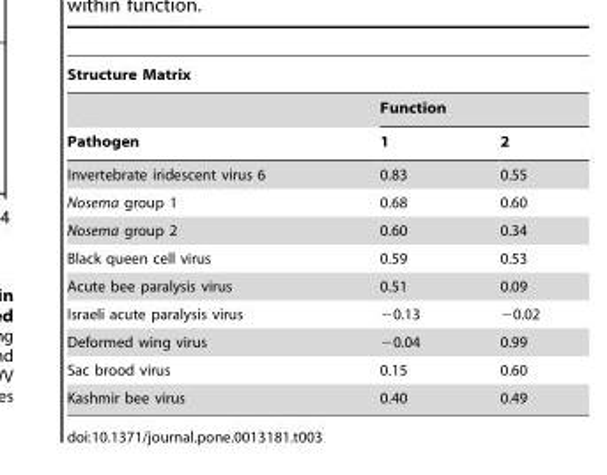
<table><thead><tr><td colspan="3">Structure Matrix</td></tr><tr><td rowspan="2">Pathogen</td><td colspan="2">Function</td></tr><tr><td>1</td><td>2</td></tr></thead><tbody><tr><td>Invertebrate iridescent virus 6</td><td>0.83</td><td>0.55</td></tr><tr><td>Nosema group 1</td><td>0.68</td><td>0.60</td></tr><tr><td>Nosema group 2</td><td>0.60</td><td>0.34</td></tr><tr><td>Black queen cell virus</td><td>0.59</td><td>0.53</td></tr><tr><td>Acute bee paralysis virus</td><td>0.51</td><td>0.09</td></tr><tr><td>Israeli acute paralysis virus</td><td>−0.13</td><td>−0.02</td></tr><tr><td>Deformed wing virus</td><td>−0.04</td><td>0.99</td></tr><tr><td>Sac brood virus</td><td>0.15</td><td>0.60</td></tr><tr><td>Kashmir bee virus</td><td>0.40</td><td>0.49</td></tr></tbody></table>